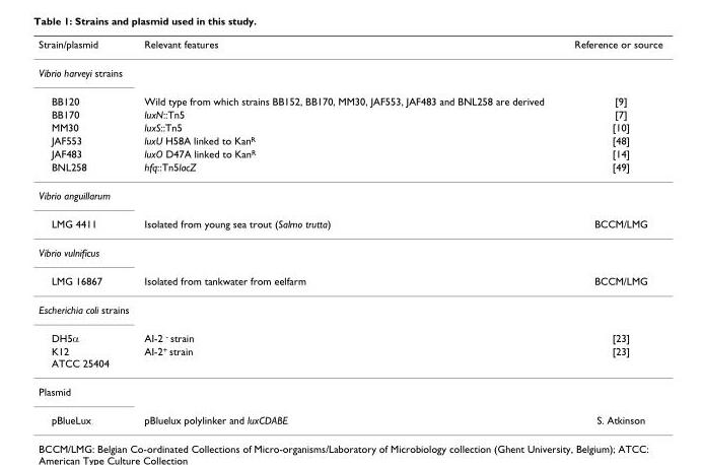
<table><thead><tr><td>Strain/plasmid</td><td>Relevant features</td><td>Reference or source</td></tr></thead><tbody><tr><td colspan="3">Vibrio harveyi strains</td></tr><tr><td>BB120</td><td>Wild type from which strains BB152, BB170, MM30, JAF553, JAF483 and BNL258 are derived</td><td>[9]</td></tr><tr><td>BB170</td><td>luxN::Tn5</td><td>[7]</td></tr><tr><td>MM30</td><td>luxS::Tn5</td><td>[10]</td></tr><tr><td>JAF553</td><td>luxU H58A linked to Kan<sup>R</sup></td><td>[48]</td></tr><tr><td>JAF483</td><td>luxO D47A linked to Kan<sup>R</sup></td><td>[14]</td></tr><tr><td>BNL258</td><td>hfq::Tn5lacZ</td><td>[49]</td></tr><tr><td colspan="3">Vibrio anguillarum</td></tr><tr><td>LMG 4411</td><td>Isolated from young sea trout (Salmo trutta)</td><td>BCCM/LMG</td></tr><tr><td colspan="3">Vibrio vulnificus</td></tr><tr><td>LMG 16867</td><td>Isolated from tankwater from eelfarm</td><td>BCCM/LMG</td></tr><tr><td colspan="3">Escherichia coli strains</td></tr><tr><td>DH5α</td><td>AI-2 <sup>-</sup> strain</td><td>[23]</td></tr><tr><td>K12 ATCC 25404</td><td>AI-2<sup>+</sup> strain</td><td>[23]</td></tr><tr><td colspan="3">Plasmid</td></tr><tr><td>pBlueLux</td><td>pBluelux polylinker and luxCDABE</td><td>S. Atkinson</td></tr></tbody></table>